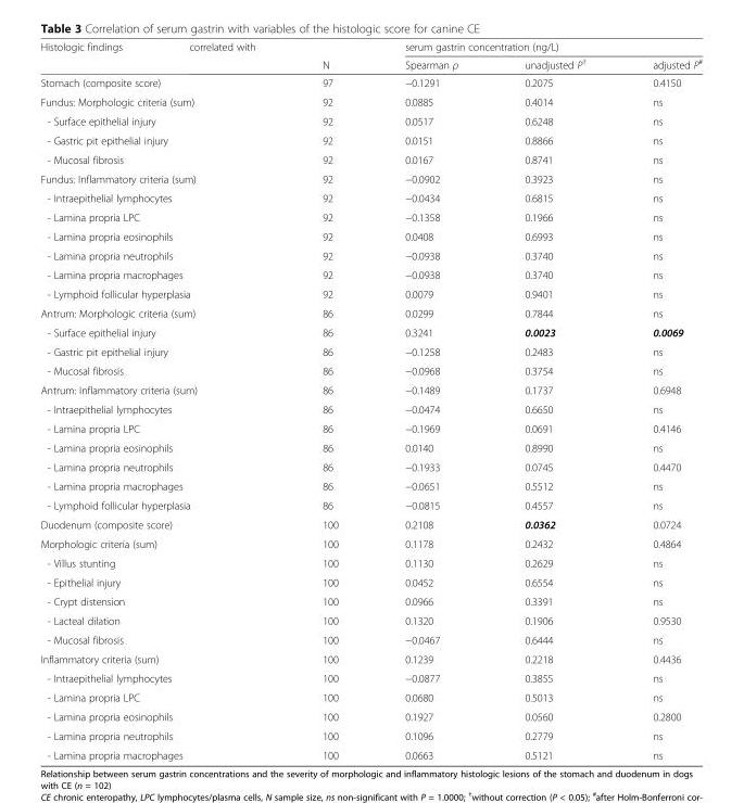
<table><thead><tr><td rowspan="2">Histologic findings</td><td rowspan="2">correlated with</td><td rowspan="2">N</td><td colspan="3">serum gastrin concentration (ng/L)</td></tr><tr><td>Spearman ρ</td><td>unadjusted P<sup>†</sup></td><td>adjusted P<sup>#</sup></td></tr></thead><tbody><tr><td colspan="2">Stomach (composite score)</td><td>97</td><td>−0.1291</td><td>0.2075</td><td>0.4150</td></tr><tr><td colspan="2">Fundus: Morphologic criteria (sum)</td><td>92</td><td>0.0885</td><td>0.4014</td><td>ns</td></tr><tr><td colspan="2">- Surface epithelial injury</td><td>92</td><td>0.0517</td><td>0.6248</td><td>ns</td></tr><tr><td colspan="2">- Gastric pit epithelial injury</td><td>92</td><td>0.0151</td><td>0.8866</td><td>ns</td></tr><tr><td colspan="2">- Mucosal fibrosis</td><td>92</td><td>0.0167</td><td>0.8741</td><td>ns</td></tr><tr><td colspan="2">Fundus: Inflammatory criteria (sum)</td><td>92</td><td>−0.0902</td><td>0.3923</td><td>ns</td></tr><tr><td colspan="2">- Intraepithelial lymphocytes</td><td>92</td><td>−0.0434</td><td>0.6815</td><td>ns</td></tr><tr><td colspan="2">- Lamina propria LPC</td><td>92</td><td>−0.1358</td><td>0.1966</td><td>ns</td></tr><tr><td colspan="2">- Lamina propria eosinophils</td><td>92</td><td>0.0408</td><td>0.6993</td><td>ns</td></tr><tr><td colspan="2">- Lamina propria neutrophils</td><td>92</td><td>−0.0938</td><td>0.3740</td><td>ns</td></tr><tr><td colspan="2">- Lamina propria macrophages</td><td>92</td><td>−0.0938</td><td>0.3740</td><td>ns</td></tr><tr><td colspan="2">- Lymphoid follicular hyperplasia</td><td>92</td><td>0.0079</td><td>0.9401</td><td>ns</td></tr><tr><td colspan="2">Antrum: Morphologic criteria (sum)</td><td>86</td><td>0.0299</td><td>0.7844</td><td>ns</td></tr><tr><td colspan="2">- Surface epithelial injury</td><td>86</td><td>0.3241</td><td>0.0023</td><td>0.0069</td></tr><tr><td colspan="2">- Gastric pit epithelial injury</td><td>86</td><td>−0.1258</td><td>0.2483</td><td>ns</td></tr><tr><td colspan="2">- Mucosal fibrosis</td><td>86</td><td>−0.0968</td><td>0.3754</td><td>ns</td></tr><tr><td colspan="2">Antrum: Inflammatory criteria (sum)</td><td>86</td><td>−0.1489</td><td>0.1737</td><td>0.6948</td></tr><tr><td colspan="2">- Intraepithelial lymphocytes</td><td>86</td><td>−0.0474</td><td>0.6650</td><td>ns</td></tr><tr><td colspan="2">- Lamina propria LPC</td><td>86</td><td>−0.1969</td><td>0.0691</td><td>0.4146</td></tr><tr><td colspan="2">- Lamina propria eosinophils</td><td>86</td><td>0.0140</td><td>0.8990</td><td>ns</td></tr><tr><td colspan="2">- Lamina propria neutrophils</td><td>86</td><td>−0.1933</td><td>0.0745</td><td>0.4470</td></tr><tr><td colspan="2">- Lamina propria macrophages</td><td>86</td><td>−0.0651</td><td>0.5512</td><td>ns</td></tr><tr><td colspan="2">- Lymphoid follicular hyperplasia</td><td>86</td><td>−0.0815</td><td>0.4557</td><td>ns</td></tr><tr><td colspan="2">Duodenum (composite score)</td><td>100</td><td>0.2108</td><td>0.0362</td><td>0.0724</td></tr><tr><td colspan="2">Morphologic criteria (sum)</td><td>100</td><td>0.1178</td><td>0.2432</td><td>0.4864</td></tr><tr><td colspan="2">- Villus stunting</td><td>100</td><td>0.1130</td><td>0.2629</td><td>ns</td></tr><tr><td colspan="2">- Epithelial injury</td><td>100</td><td>0.0452</td><td>0.6554</td><td>ns</td></tr><tr><td colspan="2">- Crypt distension</td><td>100</td><td>0.0966</td><td>0.3391</td><td>ns</td></tr><tr><td colspan="2">- Lacteal dilation</td><td>100</td><td>0.1320</td><td>0.1906</td><td>0.9530</td></tr><tr><td colspan="2">- Mucosal fibrosis</td><td>100</td><td>−0.0467</td><td>0.6444</td><td>ns</td></tr><tr><td colspan="2">Inflammatory criteria (sum)</td><td>100</td><td>0.1239</td><td>0.2218</td><td>0.4436</td></tr><tr><td colspan="2">- Intraepithelial lymphocytes</td><td>100</td><td>−0.0877</td><td>0.3855</td><td>ns</td></tr><tr><td colspan="2">- Lamina propria LPC</td><td>100</td><td>0.0680</td><td>0.5013</td><td>ns</td></tr><tr><td colspan="2">- Lamina propria eosinophils</td><td>100</td><td>0.1927</td><td>0.0560</td><td>0.2800</td></tr><tr><td colspan="2">- Lamina propria neutrophils</td><td>100</td><td>0.1096</td><td>0.2779</td><td>ns</td></tr><tr><td colspan="2">- Lamina propria macrophages</td><td>100</td><td>0.0663</td><td>0.5121</td><td>ns</td></tr></tbody></table>